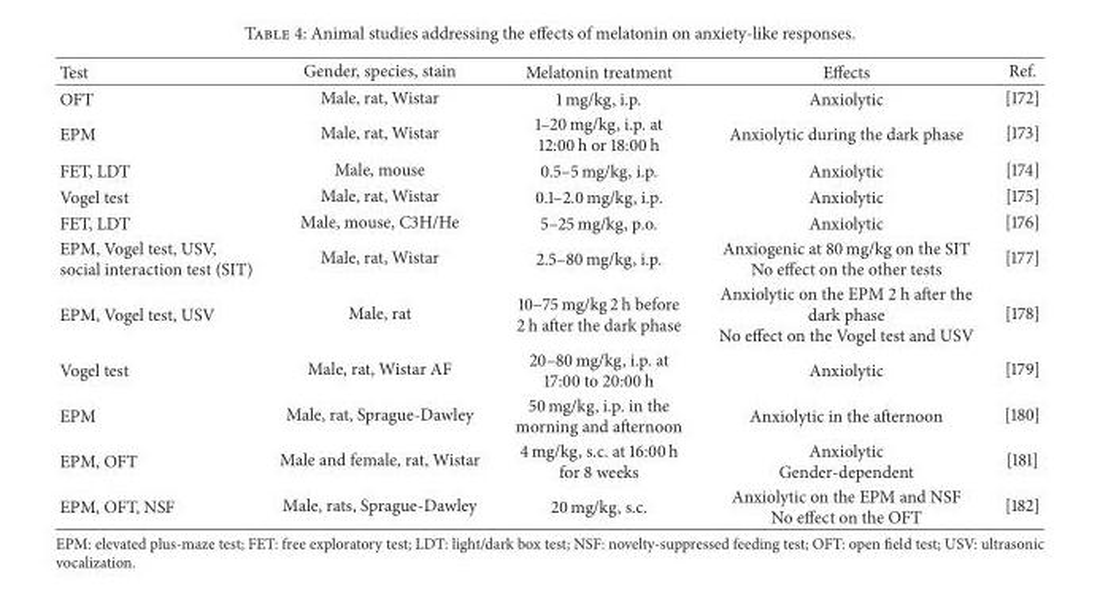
<table><thead><tr><td>Test</td><td>Gender, species, stain</td><td>Melatonin treatment</td><td>Effects</td><td>Ref.</td></tr></thead><tbody><tr><td>OFT</td><td>Male, rat, Wistar</td><td>1 mg/kg, i.p.</td><td>Anxiolytic</td><td>[172]</td></tr><tr><td>EPM</td><td>Male, rat, Wistar</td><td>1–20 mg/kg, i.p. at 12:00 h or 18:00 h</td><td>Anxiolytic during the dark phase</td><td>[173]</td></tr><tr><td>FET, LDT</td><td>Male, mouse</td><td>0.5–5 mg/kg, i.p.</td><td>Anxiolytic</td><td>[174]</td></tr><tr><td>Vogel test</td><td>Male, rat, Wistar</td><td>0.1–2.0 mg/kg, i.p.</td><td>Anxiolytic</td><td>[175]</td></tr><tr><td>FET, LDT</td><td>Male, mouse, C3H/He</td><td>5–25 mg/kg, p.o.</td><td>Anxiolytic</td><td>[176]</td></tr><tr><td>EPM, Vogel test, USV, social interaction test (SIT)</td><td>Male, rat, Wistar</td><td>2.5–80 mg/kg, i.p.</td><td>Anxiogenic at 80 mg/kg on the SIT No effect on the other tests</td><td>[177]</td></tr><tr><td>EPM, Vogel test, USV</td><td>Male, rat</td><td>10–75 mg/kg 2 h before 2 h after the dark phase</td><td>Anxiolytic on the EPM 2 h after the dark phase No effect on the Vogel test and USV</td><td>[178]</td></tr><tr><td>Vogel test</td><td>Male, rat, Wistar AF</td><td>20–80 mg/kg, i.p. at 17:00 to 20:00 h</td><td>Anxiolytic</td><td>[179]</td></tr><tr><td>EPM</td><td>Male, rat, Sprague-Dawley</td><td>50 mg/kg, i.p. in the morning and afternoon</td><td>Anxiolytic in the afternoon</td><td>[180]</td></tr><tr><td>EPM, OFT</td><td>Male and female, rat, Wistar</td><td>4 mg/kg, s.c. at 16:00 h for 8 weeks</td><td>Anxiolytic Gender-dependent</td><td>[181]</td></tr><tr><td>EPM, OFT, NSF</td><td>Male, rats, Sprague-Dawley</td><td>20 mg/kg, s.c.</td><td>Anxiolytic on the EPM and NSF No effect on the OFT</td><td>[182]</td></tr></tbody></table>